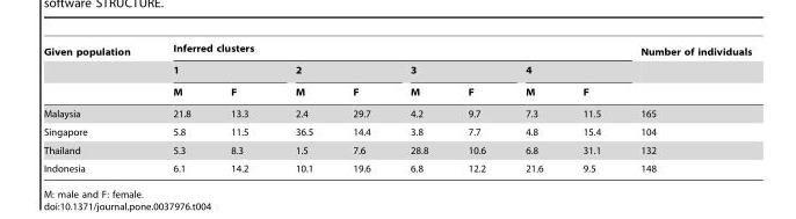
<table><thead><tr><td rowspan="3">Given population</td><td colspan="8">Inferred clusters</td><td rowspan="3">Number of individuals</td></tr><tr><td colspan="2">1</td><td colspan="2">2</td><td colspan="2">3</td><td colspan="2">4</td></tr><tr><td>M</td><td>F</td><td>M</td><td>F</td><td>M</td><td>F</td><td>M</td><td>F</td></tr></thead><tbody><tr><td>Malaysia</td><td>21.8</td><td>13.3</td><td>2.4</td><td>29.7</td><td>4.2</td><td>9.7</td><td>7.3</td><td>11.5</td><td>165</td></tr><tr><td>Singapore</td><td>5.8</td><td>11.5</td><td>36.5</td><td>14.4</td><td>3.8</td><td>7.7</td><td>4.8</td><td>15.4</td><td>104</td></tr><tr><td>Thailand</td><td>5.3</td><td>8.3</td><td>1.5</td><td>7.6</td><td>28.8</td><td>10.6</td><td>6.8</td><td>31.1</td><td>132</td></tr><tr><td>Indonesia</td><td>6.1</td><td>14.2</td><td>10.1</td><td>19.6</td><td>6.8</td><td>12.2</td><td>21.6</td><td>9.5</td><td>148</td></tr></tbody></table>